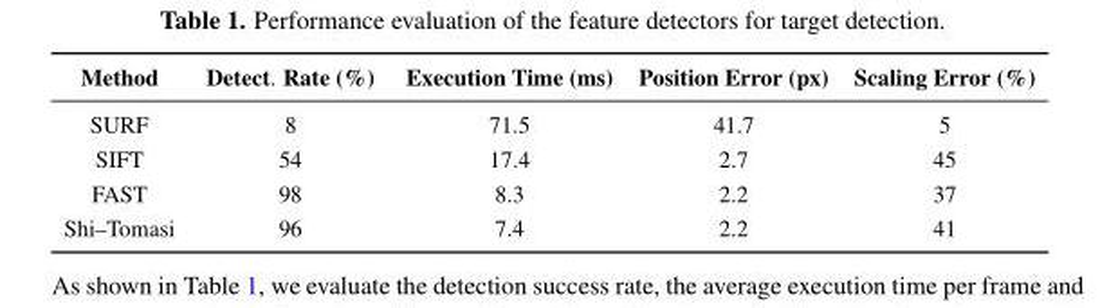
<table><thead><tr><td>Method</td><td>Detect. Rate (%)</td><td>Execution Time (ms)</td><td>Position Error (px)</td><td>Scaling Error (%)</td></tr></thead><tbody><tr><td>SURF</td><td>8</td><td>71.5</td><td>41.7</td><td>5</td></tr><tr><td>SIFT</td><td>54</td><td>17.4</td><td>2.7</td><td>45</td></tr><tr><td>FAST</td><td>98</td><td>8.3</td><td>2.2</td><td>37</td></tr><tr><td>Shi–Tomasi</td><td>96</td><td>7.4</td><td>2.2</td><td>41</td></tr></tbody></table>